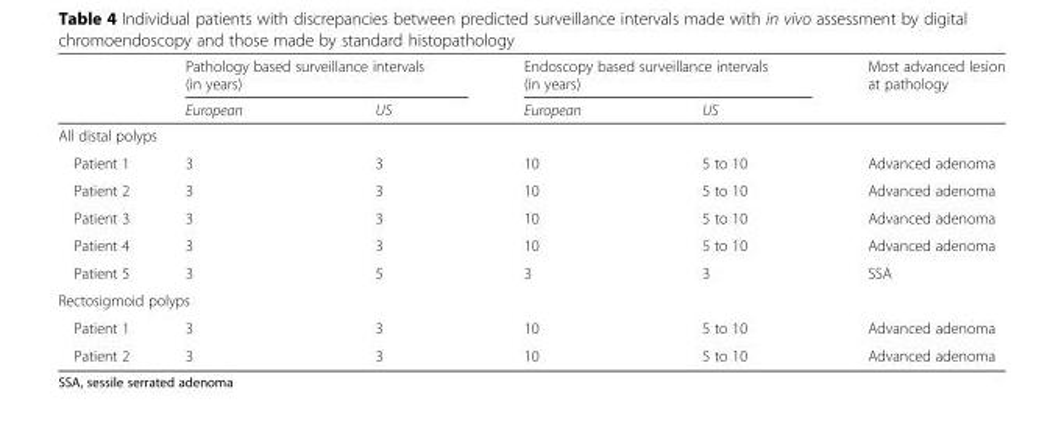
<table><thead><tr><td rowspan="2"></td><td colspan="2">Pathology based surveillance intervals (in years)</td><td colspan="2">Endoscopy based surveillance intervals (in years)</td><td rowspan="2">Most advanced lesion at pathology</td></tr><tr><td>European</td><td>US</td><td>European</td><td>US</td></tr></thead><tbody><tr><td colspan="6">All distal polyps</td></tr><tr><td>Patient 1</td><td>3</td><td>3</td><td>10</td><td>5 to 10</td><td>Advanced adenoma</td></tr><tr><td>Patient 2</td><td>3</td><td>3</td><td>10</td><td>5 to 10</td><td>Advanced adenoma</td></tr><tr><td>Patient 3</td><td>3</td><td>3</td><td>10</td><td>5 to 10</td><td>Advanced adenoma</td></tr><tr><td>Patient 4</td><td>3</td><td>3</td><td>10</td><td>5 to 10</td><td>Advanced adenoma</td></tr><tr><td>Patient 5</td><td>3</td><td>5</td><td>3</td><td>3</td><td>SSA</td></tr><tr><td colspan="6">Rectosigmoid polyps</td></tr><tr><td>Patient 1</td><td>3</td><td>3</td><td>10</td><td>5 to 10</td><td>Advanced adenoma</td></tr><tr><td>Patient 2</td><td>3</td><td>3</td><td>10</td><td>5 to 10</td><td>Advanced adenoma</td></tr></tbody></table>